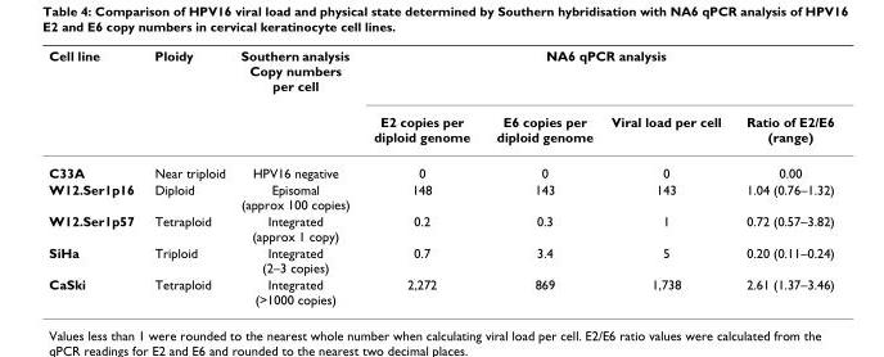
<table><thead><tr><td rowspan="2">Cell line</td><td rowspan="2">Ploidy</td><td rowspan="2">Southern analysis Copy numbers per cell</td><td colspan="4">NA6 qPCR analysis</td></tr><tr><td>E2 copies per diploid genome</td><td>E6 copies per diploid genome</td><td>Viral load per cell</td><td>Ratio of E2/E6 (range)</td></tr></thead><tbody><tr><td>C33A</td><td>Near triploid</td><td>HPV16 negative</td><td>0</td><td>0</td><td>0</td><td>0.00</td></tr><tr><td>W12.Ser1p16</td><td>Diploid</td><td>Episomal (approx 100 copies)</td><td>148</td><td>143</td><td>143</td><td>1.04 (0.76–1.32)</td></tr><tr><td>W12.Ser1p57</td><td>Tetraploid</td><td>Integrated (approx 1 copy)</td><td>0.2</td><td>0.3</td><td>1</td><td>0.72 (0.57–3.82)</td></tr><tr><td>SiHa</td><td>Triploid</td><td>Integrated (2–3 copies)</td><td>0.7</td><td>3.4</td><td>5</td><td>0.20 (0.11–0.24)</td></tr><tr><td>CaSki</td><td>Tetraploid</td><td>Integrated (&gt;1000 copies)</td><td>2,272</td><td>869</td><td>1,738</td><td>2.61 (1.37–3.46)</td></tr></tbody></table>